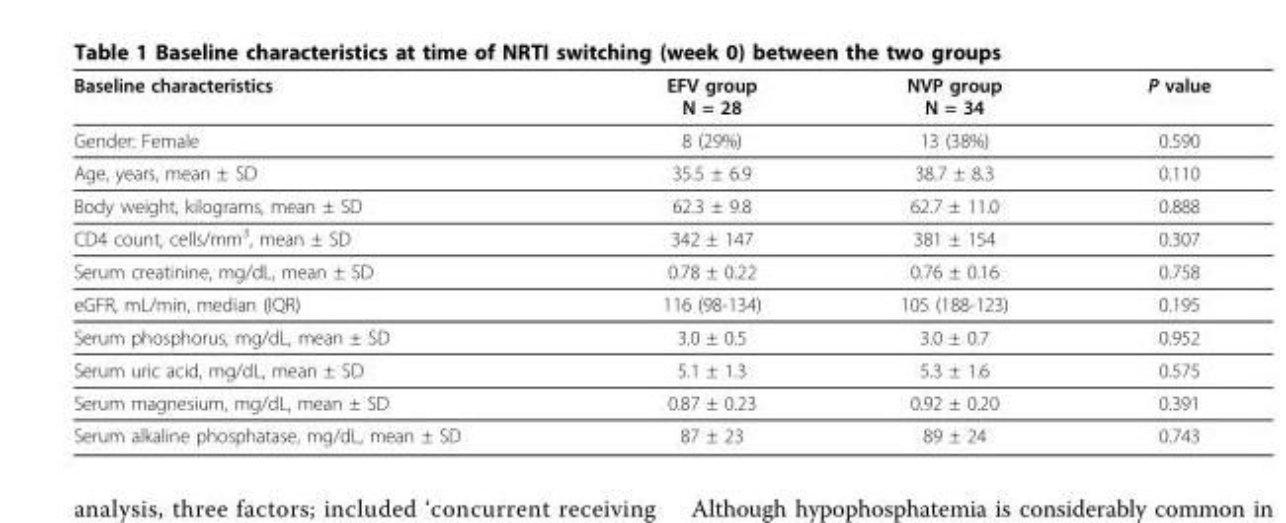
<table><thead><tr><td>Baseline characteristics</td><td>EFV group N = 28</td><td>NVP group N = 34</td><td>P value</td></tr></thead><tbody><tr><td>Gender: Female</td><td>8 (29%)</td><td>13 (38%)</td><td>0.590</td></tr><tr><td>Age, years, mean ± SD</td><td>35.5 ± 6.9</td><td>38.7 ± 8.3</td><td>0.110</td></tr><tr><td>Body weight, kilograms, mean ± SD</td><td>62.3 ± 9.8</td><td>62.7 ± 11.0</td><td>0.888</td></tr><tr><td>CD4 count, cells/mm<sup>3</sup>, mean ± SD</td><td>342 ± 147</td><td>381 ± 154</td><td>0.307</td></tr><tr><td>Serum creatinine, mg/dL, mean ± SD</td><td>0.78 ± 0.22</td><td>0.76 ± 0.16</td><td>0.758</td></tr><tr><td>eGFR, mL/min, median (IQR)</td><td>116 (98-134)</td><td>105 (188-123)</td><td>0.195</td></tr><tr><td>Serum phosphorus, mg/dL, mean ± SD</td><td>3.0 ± 0.5</td><td>3.0 ± 0.7</td><td>0.952</td></tr><tr><td>Serum uric acid, mg/dL, mean ± SD</td><td>5.1 ± 1.3</td><td>5.3 ± 1.6</td><td>0.575</td></tr><tr><td>Serum magnesium, mg/dL, mean ± SD</td><td>0.87 ± 0.23</td><td>0.92 ± 0.20</td><td>0.391</td></tr><tr><td>Serum alkaline phosphatase, mg/dL, mean ± SD</td><td>87 ± 23</td><td>89 ± 24</td><td>0.743</td></tr></tbody></table>